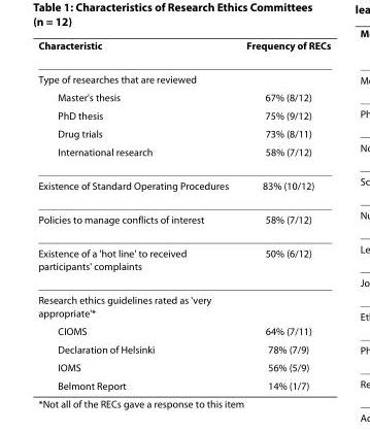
<table><thead><tr><td>Characteristic</td><td>Frequency of RECs</td></tr></thead><tbody><tr><td colspan="2">Type of researches that are reviewed</td></tr><tr><td>Master&#x27;s thesis</td><td>67% (8/12)</td></tr><tr><td>PhD thesis</td><td>75% (9/12)</td></tr><tr><td>Drug trials</td><td>73% (8/11)</td></tr><tr><td>International research</td><td>58% (7/12)</td></tr><tr><td>Existence of Standard Operating Procedures</td><td>83% (10/12)</td></tr><tr><td>Policies to manage conflicts of interest</td><td>58% (7/12)</td></tr><tr><td>Existence of a &#x27;hot line&#x27; to received participants&#x27; complaints</td><td>50% (6/12)</td></tr><tr><td colspan="2">Research ethics guidelines rated as &#x27;very appropriate&#x27;*</td></tr><tr><td>CIOMS</td><td>64% (7/11)</td></tr><tr><td>Declaration of Helsinki</td><td>78% (7/9)</td></tr><tr><td>IOMS</td><td>56% (5/9)</td></tr><tr><td>Belmont Report</td><td>14% (1/7)</td></tr></tbody></table>